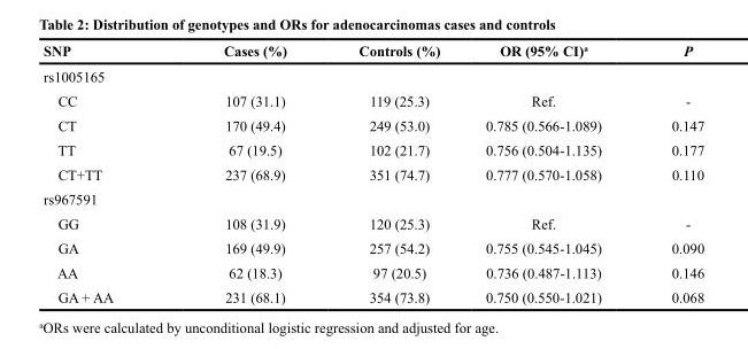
<table><thead><tr><td>SNP</td><td>Cases (%)</td><td>Controls (%)</td><td>OR (95% CI)<sup>a</sup></td><td>P</td></tr></thead><tbody><tr><td colspan="5">rs1005165</td></tr><tr><td>CC</td><td>107 (31.1)</td><td>119 (25.3)</td><td>Ref.</td><td>-</td></tr><tr><td>CT</td><td>170 (49.4)</td><td>249 (53.0)</td><td>0.785 (0.566-1.089)</td><td>0.147</td></tr><tr><td>TT</td><td>67 (19.5)</td><td>102 (21.7)</td><td>0.756 (0.504-1.135)</td><td>0.177</td></tr><tr><td>CT+TT</td><td>237 (68.9)</td><td>351 (74.7)</td><td>0.777 (0.570-1.058)</td><td>0.110</td></tr><tr><td colspan="5">rs967591</td></tr><tr><td>GG</td><td>108 (31.9)</td><td>120 (25.3)</td><td>Ref.</td><td>-</td></tr><tr><td>GA</td><td>169 (49.9)</td><td>257 (54.2)</td><td>0.755 (0.545-1.045)</td><td>0.090</td></tr><tr><td>AA</td><td>62 (18.3)</td><td>97 (20.5)</td><td>0.736 (0.487-1.113)</td><td>0.146</td></tr><tr><td>GA + AA</td><td>231 (68.1)</td><td>354 (73.8)</td><td>0.750 (0.550-1.021)</td><td>0.068</td></tr></tbody></table>